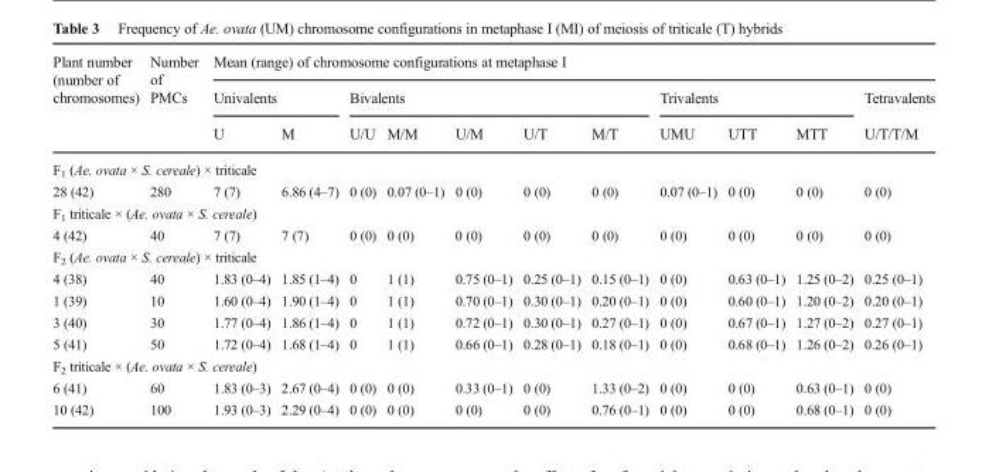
<table><thead><tr><td rowspan="3">Plant number (number of chromosomes)</td><td rowspan="3">Number of PMCs</td><td colspan="11">Mean (range) of chromosome configurations at metaphase I</td></tr><tr><td colspan="2">Univalents</td><td colspan="5">Bivalents</td><td colspan="3">Trivalents</td><td rowspan="2">Tetravalents U/T/T/M</td></tr><tr><td>U</td><td>M</td><td>U/U</td><td>M/M</td><td>U/M</td><td>U/T</td><td>M/T</td><td>UMU</td><td>UTT</td><td>MTT</td></tr></thead><tbody><tr><td colspan="13">F<sub>1</sub> (Ae. ovata × S. cereale) × triticale</td></tr><tr><td>28 (42)</td><td>280</td><td>7 (7)</td><td>6.86 (4–7)</td><td>0 (0)</td><td>0.07 (0–1)</td><td>0 (0)</td><td>0 (0)</td><td>0 (0)</td><td>0.07 (0–1)</td><td>0 (0)</td><td>0 (0)</td><td>0 (0)</td></tr><tr><td colspan="13">F<sub>1</sub> triticale × (Ae. ovata × S. cereale)</td></tr><tr><td>4 (42)</td><td>40</td><td>7 (7)</td><td>7 (7)</td><td>0 (0)</td><td>0 (0)</td><td>0 (0)</td><td>0 (0)</td><td>0 (0)</td><td>0 (0)</td><td>0 (0)</td><td>0 (0)</td><td>0 (0)</td></tr><tr><td colspan="13">F<sub>2</sub> (Ae. ovata × S. cereale) × triticale</td></tr><tr><td>4 (38)</td><td>40</td><td>1.83 (0–4)</td><td>1.85 (1–4)</td><td>0</td><td>1 (1)</td><td>0.75 (0–1)</td><td>0.25 (0–1)</td><td>0.15 (0–1)</td><td>0 (0)</td><td>0.63 (0–1)</td><td>1.25 (0–2)</td><td>0.25 (0–1)</td></tr><tr><td>1 (39)</td><td>10</td><td>1.60 (0–4)</td><td>1.90 (1–4)</td><td>0</td><td>1 (1)</td><td>0.70 (0–1)</td><td>0.30 (0–1)</td><td>0.20 (0–1)</td><td>0 (0)</td><td>0.60 (0–1)</td><td>1.20 (0–2)</td><td>0.20 (0–1)</td></tr><tr><td>3 (40)</td><td>30</td><td>1.77 (0–4)</td><td>1.86 (1–4)</td><td>0</td><td>1 (1)</td><td>0.72 (0–1)</td><td>0.30 (0–1)</td><td>0.27 (0–1)</td><td>0 (0)</td><td>0.67 (0–1)</td><td>1.27 (0–2)</td><td>0.27 (0–1)</td></tr><tr><td>5 (41)</td><td>50</td><td>1.72 (0–4)</td><td>1.68 (1–4)</td><td>0</td><td>1 (1)</td><td>0.66 (0–1)</td><td>0.28 (0–1)</td><td>0.18 (0–1)</td><td>0 (0)</td><td>0.68 (0–1)</td><td>1.26 (0–2)</td><td>0.26 (0–1)</td></tr><tr><td colspan="13">F<sub>2</sub> triticale × (Ae. ovata × S. cereale)</td></tr><tr><td>6 (41)</td><td>60</td><td>1.83 (0–3)</td><td>2.67 (0–4)</td><td>0 (0)</td><td>0 (0)</td><td>0.33 (0–1)</td><td>0 (0)</td><td>1.33 (0–2)</td><td>0 (0)</td><td>0 (0)</td><td>0.63 (0–1)</td><td>0 (0)</td></tr><tr><td>10 (42)</td><td>100</td><td>1.93 (0–3)</td><td>2.29 (0–4)</td><td>0 (0)</td><td>0 (0)</td><td>0 (0)</td><td>0 (0)</td><td>0.76 (0–1)</td><td>0 (0)</td><td>0 (0)</td><td>0.68 (0–1)</td><td>0 (0)</td></tr></tbody></table>